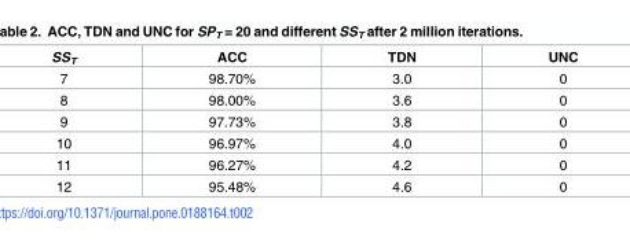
<table><thead><tr><td>SS<sub>T</sub></td><td>ACC</td><td>TDN</td><td>UNC</td></tr></thead><tbody><tr><td>7</td><td>98.70%</td><td>3.0</td><td>0</td></tr><tr><td>8</td><td>98.00%</td><td>3.6</td><td>0</td></tr><tr><td>9</td><td>97.73%</td><td>3.8</td><td>0</td></tr><tr><td>10</td><td>96.97%</td><td>4.0</td><td>0</td></tr><tr><td>11</td><td>96.27%</td><td>4.2</td><td>0</td></tr><tr><td>12</td><td>95.48%</td><td>4.6</td><td>0</td></tr></tbody></table>